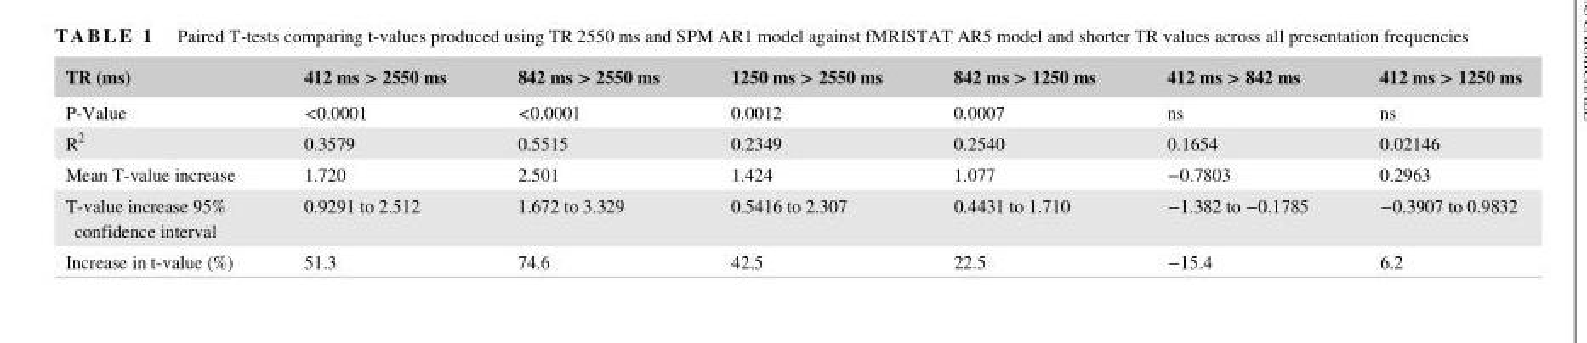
<table><thead><tr><td>TR (ms)</td><td>412 ms &gt; 2550 ms</td><td>842 ms &gt; 2550 ms</td><td>1250 ms &gt; 2550 ms</td><td>842 ms &gt; 1250 ms</td><td>412 ms &gt; 842 ms</td><td>412 ms &gt; 1250 ms</td></tr></thead><tbody><tr><td>P‐Value</td><td>&lt;0.0001</td><td>&lt;0.0001</td><td>0.0012</td><td>0.0007</td><td>ns</td><td>ns</td></tr><tr><td>R<sup>2</sup></td><td>0.3579</td><td>0.5515</td><td>0.2349</td><td>0.2540</td><td>0.1654</td><td>0.02146</td></tr><tr><td>Mean T‐value increase</td><td>1.720</td><td>2.501</td><td>1.424</td><td>1.077</td><td>−0.7803</td><td>0.2963</td></tr><tr><td>T‐value increase 95% confidence interval</td><td>0.9291 to 2.512</td><td>1.672 to 3.329</td><td>0.5416 to 2.307</td><td>0.4431 to 1.710</td><td>−1.382 to −0.1785</td><td>−0.3907 to 0.9832</td></tr><tr><td>Increase in t‐value (%)</td><td>51.3</td><td>74.6</td><td>42.5</td><td>22.5</td><td>−15.4</td><td>6.2</td></tr></tbody></table>